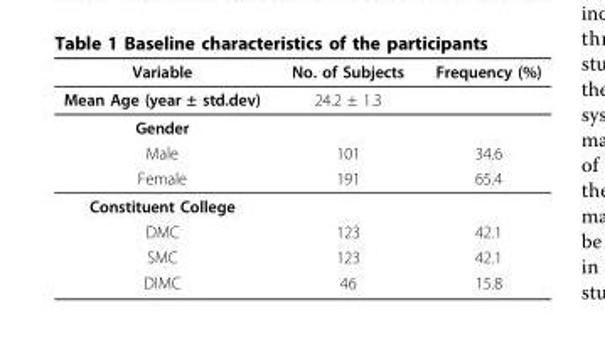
<table><thead><tr><td>Variable</td><td>No. of Subjects</td><td>Frequency (%)</td></tr></thead><tbody><tr><td>Mean Age (year ± std.dev)</td><td>24.2 ± 1.3</td><td></td></tr><tr><td colspan="3">Gender</td></tr><tr><td>Male</td><td>101</td><td>34.6</td></tr><tr><td>Female</td><td>191</td><td>65.4</td></tr><tr><td colspan="3">Constituent College</td></tr><tr><td>DMC</td><td>123</td><td>42.1</td></tr><tr><td>SMC</td><td>123</td><td>42.1</td></tr><tr><td>DIMC</td><td>46</td><td>15.8</td></tr></tbody></table>